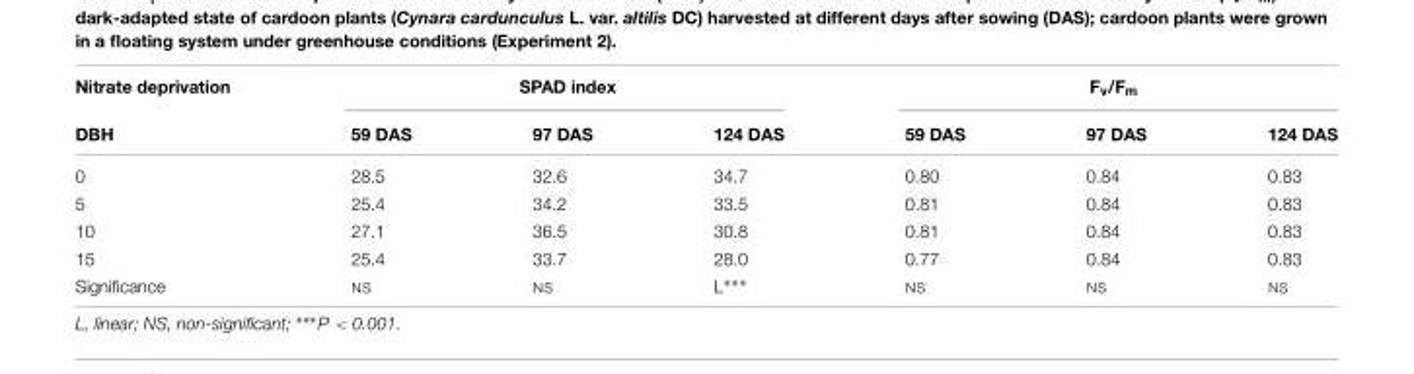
<table><thead><tr><td rowspan="2">Nitrate deprivation DBH</td><td colspan="3">SPAD index</td><td colspan="3">F<sub>v</sub>/F<sub>m</sub></td></tr><tr><td>59 DAS</td><td>97 DAS</td><td>124 DAS</td><td>59 DAS</td><td>97 DAS</td><td>124 DAS</td></tr></thead><tbody><tr><td>0</td><td>28.5</td><td>32.6</td><td>34.7</td><td>0.80</td><td>0.84</td><td>0.83</td></tr><tr><td>5</td><td>25.4</td><td>34.2</td><td>33.5</td><td>0.81</td><td>0.84</td><td>0.83</td></tr><tr><td>10</td><td>27.1</td><td>36.5</td><td>30.8</td><td>0.81</td><td>0.84</td><td>0.83</td></tr><tr><td>15</td><td>25.4</td><td>33.7</td><td>28.0</td><td>0.77</td><td>0.84</td><td>0.83</td></tr><tr><td>Significance</td><td>NS</td><td>NS</td><td>L∗∗∗</td><td>NS</td><td>NS</td><td>NS</td></tr></tbody></table>